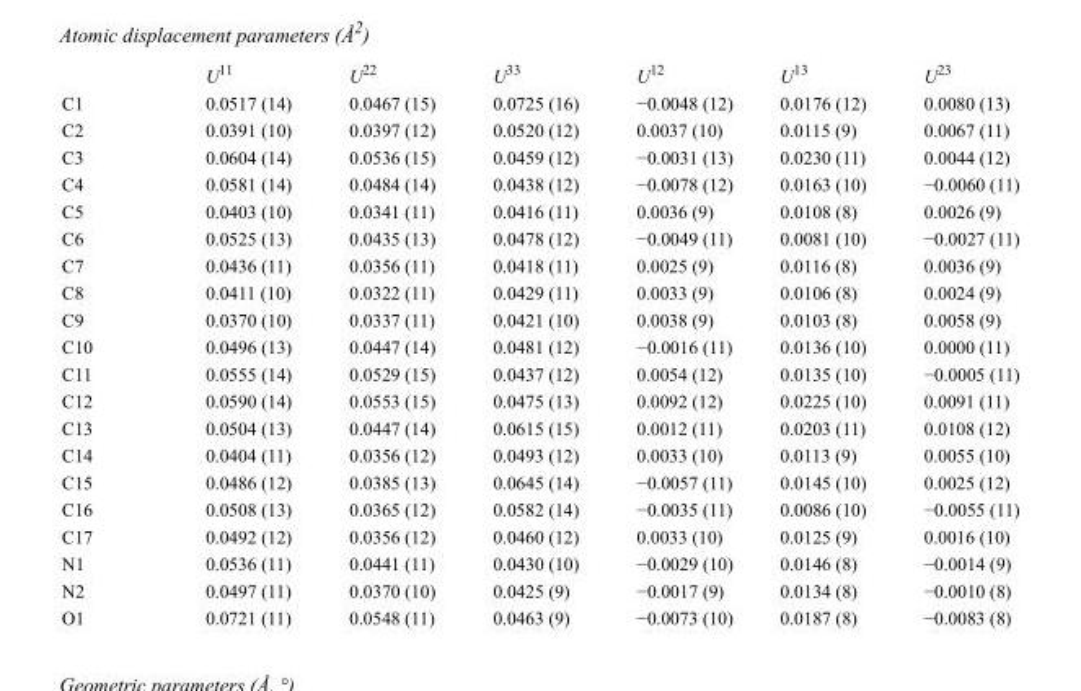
<table><thead><tr><td></td><td>U<sup>11</sup></td><td>U<sup>22</sup></td><td>U<sup>33</sup></td><td>U<sup>12</sup></td><td>U<sup>13</sup></td><td>U<sup>23</sup></td></tr></thead><tbody><tr><td>C1</td><td>0.0517 (14)</td><td>0.0467 (15)</td><td>0.0725 (16)</td><td>−0.0048 (12)</td><td>0.0176 (12)</td><td>0.0080 (13)</td></tr><tr><td>C2</td><td>0.0391 (10)</td><td>0.0397 (12)</td><td>0.0520 (12)</td><td>0.0037 (10)</td><td>0.0115 (9)</td><td>0.0067 (11)</td></tr><tr><td>C3</td><td>0.0604 (14)</td><td>0.0536 (15)</td><td>0.0459 (12)</td><td>−0.0031 (13)</td><td>0.0230 (11)</td><td>0.0044 (12)</td></tr><tr><td>C4</td><td>0.0581 (14)</td><td>0.0484 (14)</td><td>0.0438 (12)</td><td>−0.0078 (12)</td><td>0.0163 (10)</td><td>−0.0060 (11)</td></tr><tr><td>C5</td><td>0.0403 (10)</td><td>0.0341 (11)</td><td>0.0416 (11)</td><td>0.0036 (9)</td><td>0.0108 (8)</td><td>0.0026 (9)</td></tr><tr><td>C6</td><td>0.0525 (13)</td><td>0.0435 (13)</td><td>0.0478 (12)</td><td>−0.0049 (11)</td><td>0.0081 (10)</td><td>−0.0027 (11)</td></tr><tr><td>C7</td><td>0.0436 (11)</td><td>0.0356 (11)</td><td>0.0418 (11)</td><td>0.0025 (9)</td><td>0.0116 (8)</td><td>0.0036 (9)</td></tr><tr><td>C8</td><td>0.0411 (10)</td><td>0.0322 (11)</td><td>0.0429 (11)</td><td>0.0033 (9)</td><td>0.0106 (8)</td><td>0.0024 (9)</td></tr><tr><td>C9</td><td>0.0370 (10)</td><td>0.0337 (11)</td><td>0.0421 (10)</td><td>0.0038 (9)</td><td>0.0103 (8)</td><td>0.0058 (9)</td></tr><tr><td>C10</td><td>0.0496 (13)</td><td>0.0447 (14)</td><td>0.0481 (12)</td><td>−0.0016 (11)</td><td>0.0136 (10)</td><td>0.0000 (11)</td></tr><tr><td>C11</td><td>0.0555 (14)</td><td>0.0529 (15)</td><td>0.0437 (12)</td><td>0.0054 (12)</td><td>0.0135 (10)</td><td>−0.0005 (11)</td></tr><tr><td>C12</td><td>0.0590 (14)</td><td>0.0553 (15)</td><td>0.0475 (13)</td><td>0.0092 (12)</td><td>0.0225 (10)</td><td>0.0091 (11)</td></tr><tr><td>C13</td><td>0.0504 (13)</td><td>0.0447 (14)</td><td>0.0615 (15)</td><td>0.0012 (11)</td><td>0.0203 (11)</td><td>0.0108 (12)</td></tr><tr><td>C14</td><td>0.0404 (11)</td><td>0.0356 (12)</td><td>0.0493 (12)</td><td>0.0033 (10)</td><td>0.0113 (9)</td><td>0.0055 (10)</td></tr><tr><td>C15</td><td>0.0486 (12)</td><td>0.0385 (13)</td><td>0.0645 (14)</td><td>−0.0057 (11)</td><td>0.0145 (10)</td><td>0.0025 (12)</td></tr><tr><td>C16</td><td>0.0508 (13)</td><td>0.0365 (12)</td><td>0.0582 (14)</td><td>−0.0035 (11)</td><td>0.0086 (10)</td><td>−0.0055 (11)</td></tr><tr><td>C17</td><td>0.0492 (12)</td><td>0.0356 (12)</td><td>0.0460 (12)</td><td>0.0033 (10)</td><td>0.0125 (9)</td><td>0.0016 (10)</td></tr><tr><td>N1</td><td>0.0536 (11)</td><td>0.0441 (11)</td><td>0.0430 (10)</td><td>−0.0029 (10)</td><td>0.0146 (8)</td><td>−0.0014 (9)</td></tr><tr><td>N2</td><td>0.0497 (11)</td><td>0.0370 (10)</td><td>0.0425 (9)</td><td>−0.0017 (9)</td><td>0.0134 (8)</td><td>−0.0010 (8)</td></tr><tr><td>O1</td><td>0.0721 (11)</td><td>0.0548 (11)</td><td>0.0463 (9)</td><td>−0.0073 (10)</td><td>0.0187 (8)</td><td>−0.0083 (8)</td></tr></tbody></table>